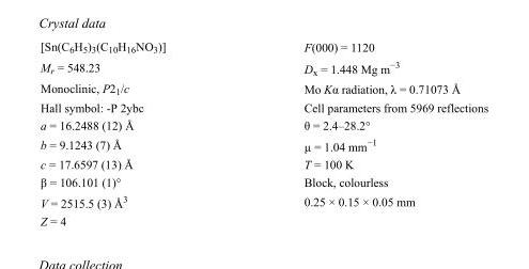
<table><tbody><tr><td>[Sn(C<sub>6</sub>H<sub>5</sub>)<sub>3</sub>(C<sub>10</sub>H<sub>16</sub>NO<sub>3</sub>)]</td><td>F(000) = 1120</td></tr><tr><td>M<sub>r</sub> = 548.23</td><td>D<sub>x</sub> = 1.448 Mg m<sup>−3</sup></td></tr><tr><td>Monoclinic, P2<sub>1</sub>/c</td><td>Mo Kα radiation, λ = 0.71073 Å</td></tr><tr><td>Hall symbol: -P 2ybc</td><td>Cell parameters from 5969 reflections</td></tr><tr><td>a = 16.2488 (12) Å</td><td>θ = 2.4–28.2°</td></tr><tr><td>b = 9.1243 (7) Å</td><td>µ = 1.04 mm<sup>−1</sup></td></tr><tr><td>c = 17.6597 (13) Å</td><td>T = 100 K</td></tr><tr><td>β = 106.101 (1)°</td><td>Block, colourless</td></tr><tr><td>V = 2515.5 (3) Å<sup>3</sup></td><td>0.25 × 0.15 × 0.05 mm</td></tr><tr><td>Z = 4</td><td></td></tr></tbody></table>